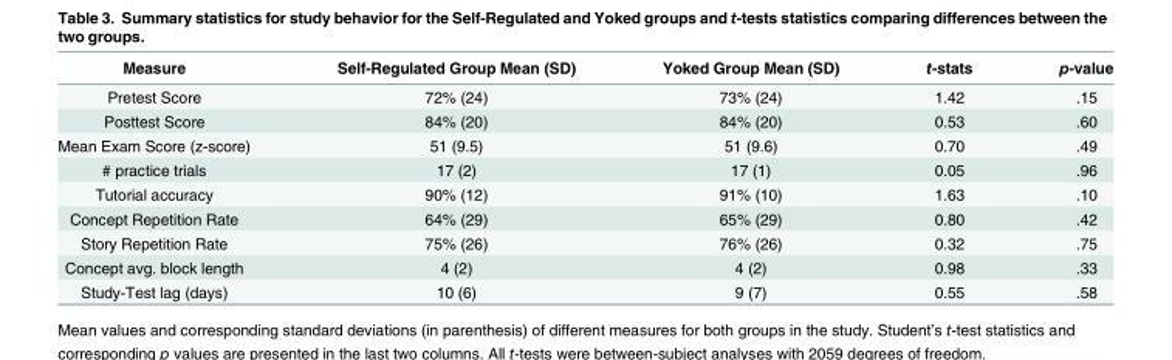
<table><thead><tr><td>Measure</td><td>Self-Regulated Group Mean (SD)</td><td>Yoked Group Mean (SD)</td><td>t-stats</td><td>p-value</td></tr></thead><tbody><tr><td>Pretest Score</td><td>72% (24)</td><td>73% (24)</td><td>1.42</td><td>.15</td></tr><tr><td>Posttest Score</td><td>84% (20)</td><td>84% (20)</td><td>0.53</td><td>.60</td></tr><tr><td>Mean Exam Score (z-score)</td><td>51 (9.5)</td><td>51 (9.6)</td><td>0.70</td><td>.49</td></tr><tr><td># practice trials</td><td>17 (2)</td><td>17 (1)</td><td>0.05</td><td>.96</td></tr><tr><td>Tutorial accuracy</td><td>90% (12)</td><td>91% (10)</td><td>1.63</td><td>.10</td></tr><tr><td>Concept Repetition Rate</td><td>64% (29)</td><td>65% (29)</td><td>0.80</td><td>.42</td></tr><tr><td>Story Repetition Rate</td><td>75% (26)</td><td>76% (26)</td><td>0.32</td><td>.75</td></tr><tr><td>Concept avg. block length</td><td>4 (2)</td><td>4 (2)</td><td>0.98</td><td>.33</td></tr><tr><td>Study-Test lag (days)</td><td>10 (6)</td><td>9 (7)</td><td>0.55</td><td>.58</td></tr></tbody></table>